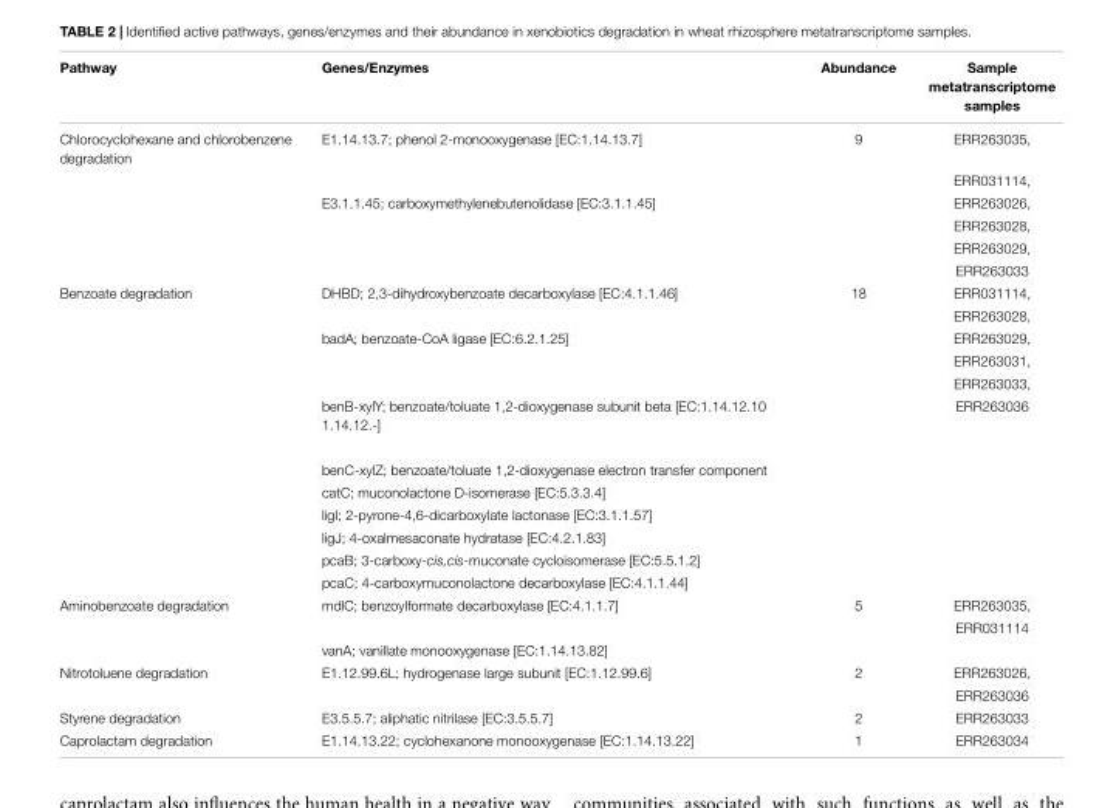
<table><thead><tr><td>Pathway</td><td>Genes/Enzymes</td><td>Abundance</td><td>Sample metatranscriptome samples</td></tr></thead><tbody><tr><td rowspan="6">Chlorocyclohexane and chlorobenzene degradation</td><td>E1.14.13.7; phenol 2-monooxygenase [EC:1.14.13.7]</td><td>9</td><td>ERR263035,</td></tr><tr><td></td><td></td><td>ERR031114,</td></tr><tr><td>E3.1.1.45; carboxymethylenebutenolidase [EC:3.1.1.45]</td><td></td><td>ERR263026,</td></tr><tr><td></td><td></td><td>ERR263028,</td></tr><tr><td></td><td></td><td>ERR263029,</td></tr><tr><td></td><td></td><td>ERR263033</td></tr><tr><td rowspan="12">Benzoate degradation</td><td>DHBD; 2,3-dihydroxybenzoate decarboxylase [EC:4.1.1.46]</td><td>18</td><td>ERR031114,</td></tr><tr><td></td><td></td><td>ERR263028,</td></tr><tr><td>badA; benzoate-CoA ligase [EC:6.2.1.25]</td><td></td><td>ERR263029,</td></tr><tr><td></td><td></td><td>ERR263031,</td></tr><tr><td></td><td></td><td>ERR263033,</td></tr><tr><td>benB-xylY; benzoate/toluate 1,2-dioxygenase subunit beta [EC:1.14.12.10 1.14.12.-]</td><td></td><td>ERR263036</td></tr><tr><td>benC-xylZ; benzoate/toluate 1,2-dioxygenase electron transfer component</td><td></td><td></td></tr><tr><td>catC; muconolactone D-isomerase [EC:5.3.3.4]</td><td></td><td></td></tr><tr><td>ligI; 2-pyrone-4,6-dicarboxylate lactonase [EC:3.1.1.57]</td><td></td><td></td></tr><tr><td>ligJ; 4-oxalmesaconate hydratase [EC:4.2.1.83]</td><td></td><td></td></tr><tr><td>pcaB; 3-carboxy-cis,cis-muconate cycloisomerase [EC:5.5.1.2]</td><td></td><td></td></tr><tr><td>pcaC; 4-carboxymuconolactone decarboxylase [EC:4.1.1.44]</td><td></td><td></td></tr><tr><td rowspan="3">Aminobenzoate degradation</td><td>mdlC; benzoylformate decarboxylase [EC:4.1.1.7]</td><td>5</td><td>ERR263035,</td></tr><tr><td></td><td></td><td>ERR031114</td></tr><tr><td>vanA; vanillate monooxygenase [EC:1.14.13.82]</td><td></td><td></td></tr><tr><td rowspan="2">Nitrotoluene degradation</td><td>E1.12.99.6L; hydrogenase large subunit [EC:1.12.99.6]</td><td>2</td><td>ERR263026,</td></tr><tr><td></td><td></td><td>ERR263036</td></tr><tr><td>Styrene degradation</td><td>E3.5.5.7; aliphatic nitrilase [EC:3.5.5.7]</td><td>2</td><td>ERR263033</td></tr><tr><td>Caprolactam degradation</td><td>E1.14.13.22; cyclohexanone monooxygenase [EC:1.14.13.22]</td><td>1</td><td>ERR263034</td></tr></tbody></table>